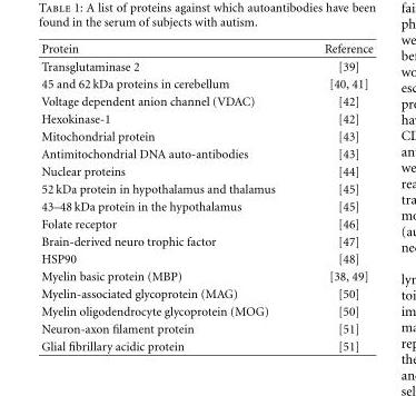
<table><thead><tr><td>Protein</td><td>Reference</td></tr></thead><tbody><tr><td>Transglutaminase 2</td><td>[39]</td></tr><tr><td>45 and 62 kDa proteins in cerebellum</td><td>[40, 41]</td></tr><tr><td>Voltage dependent anion channel (VDAC)</td><td>[42]</td></tr><tr><td>Hexokinase-1</td><td>[42]</td></tr><tr><td>Mitochondrial protein</td><td>[43]</td></tr><tr><td>Antimitochondrial DNA auto-antibodies</td><td>[43]</td></tr><tr><td>Nuclear proteins</td><td>[44]</td></tr><tr><td>52 kDa protein in hypothalamus and thalamus</td><td>[45]</td></tr><tr><td>43–48 kDa protein in the hypothalamus</td><td>[45]</td></tr><tr><td>Folate receptor</td><td>[46]</td></tr><tr><td>Brain-derived neuro trophic factor</td><td>[47]</td></tr><tr><td>HSP90</td><td>[48]</td></tr><tr><td>Myelin basic protein (MBP)</td><td>[38, 49]</td></tr><tr><td>Myelin-associated glycoprotein (MAG)</td><td>[50]</td></tr><tr><td>Myelin oligodendrocyte glycoprotein (MOG)</td><td>[50]</td></tr><tr><td>Neuron-axon filament protein</td><td>[51]</td></tr><tr><td>Glial fibrillary acidic protein</td><td>[51]</td></tr></tbody></table>